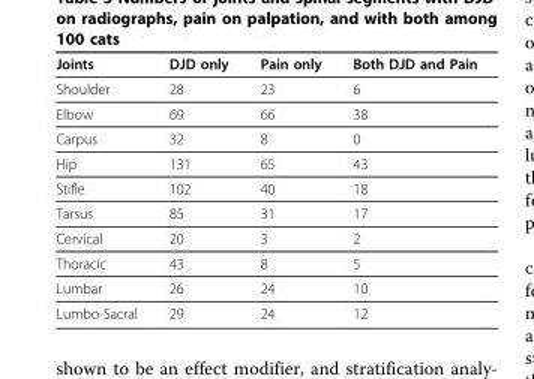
<table><thead><tr><td>Joints</td><td>DJD only</td><td>Pain only</td><td>Both DJD and Pain</td></tr></thead><tbody><tr><td>Shoulder</td><td>28</td><td>23</td><td>6</td></tr><tr><td>Elbow</td><td>69</td><td>66</td><td>38</td></tr><tr><td>Carpus</td><td>32</td><td>8</td><td>0</td></tr><tr><td>Hip</td><td>131</td><td>65</td><td>43</td></tr><tr><td>Stifle</td><td>102</td><td>40</td><td>18</td></tr><tr><td>Tarsus</td><td>85</td><td>31</td><td>17</td></tr><tr><td>Cervical</td><td>20</td><td>3</td><td>2</td></tr><tr><td>Thoracic</td><td>43</td><td>8</td><td>5</td></tr><tr><td>Lumbar</td><td>26</td><td>24</td><td>10</td></tr><tr><td>Lumbo-Sacral</td><td>29</td><td>24</td><td>12</td></tr></tbody></table>